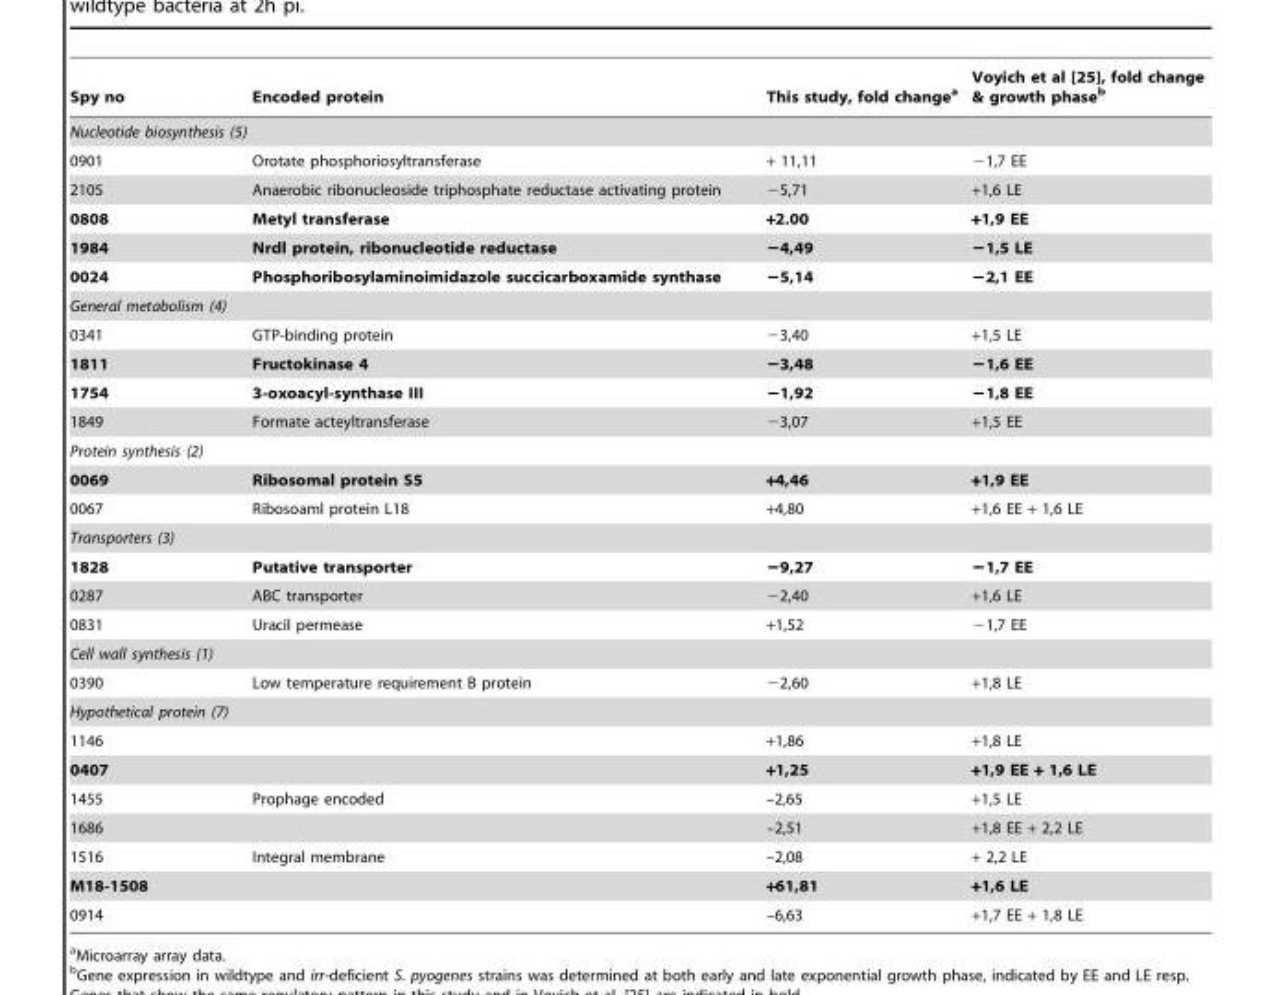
<table><thead><tr><td>Spy no</td><td>Encoded protein</td><td>This study, fold change<sup>a</sup></td><td>Voyich et al [25], fold change &amp; growth phase<sup>b</sup></td></tr></thead><tbody><tr><td colspan="4">Nucleotide biosynthesis (5)</td></tr><tr><td>0901</td><td>Orotate phosphoriosyltransferase</td><td>+ 11,11</td><td>−1,7 EE</td></tr><tr><td>2105</td><td>Anaerobic ribonucleoside triphosphate reductase activating protein</td><td>−5,71</td><td>+1,6 LE</td></tr><tr><td>0808</td><td>Metyl transferase</td><td>+2.00</td><td>+1,9 EE</td></tr><tr><td>1984</td><td>Nrdl protein, ribonucleotide reductase</td><td>−4,49</td><td>−1,5 LE</td></tr><tr><td>0024</td><td>Phosphoribosylaminoimidazole succicarboxamide synthase</td><td>−5,14</td><td>−2,1 EE</td></tr><tr><td colspan="4">General metabolism (4)</td></tr><tr><td>0341</td><td>GTP-binding protein</td><td>−3,40</td><td>+1,5 LE</td></tr><tr><td>1811</td><td>Fructokinase 4</td><td>−3,48</td><td>−1,6 EE</td></tr><tr><td>1754</td><td>3-oxoacyl-synthase III</td><td>−1,92</td><td>−1,8 EE</td></tr><tr><td>1849</td><td>Formate acteyltransferase</td><td>−3,07</td><td>+1,5 EE</td></tr><tr><td colspan="4">Protein synthesis (2)</td></tr><tr><td>0069</td><td>Ribosomal protein S5</td><td>+4,46</td><td>+1,9 EE</td></tr><tr><td>0067</td><td>Ribosoaml protein L18</td><td>+4,80</td><td>+1,6 EE + 1,6 LE</td></tr><tr><td colspan="4">Transporters (3)</td></tr><tr><td>1828</td><td>Putative transporter</td><td>−9,27</td><td>−1,7 EE</td></tr><tr><td>0287</td><td>ABC transporter</td><td>−2,40</td><td>+1,6 LE</td></tr><tr><td>0831</td><td>Uracil permease</td><td>+1,52</td><td>−1,7 EE</td></tr><tr><td colspan="4">Cell wall synthesis (1)</td></tr><tr><td>0390</td><td>Low temperature requirement B protein</td><td>−2,60</td><td>+1,8 LE</td></tr><tr><td colspan="4">Hypothetical protein (7)</td></tr><tr><td>1146</td><td></td><td>+1,86</td><td>+1,8 LE</td></tr><tr><td>0407</td><td></td><td>+1,25</td><td>+1,9 EE + 1,6 LE</td></tr><tr><td>1455</td><td>Prophage encoded</td><td>–2,65</td><td>+1,5 LE</td></tr><tr><td>1686</td><td></td><td>–2,51</td><td>+1,8 EE + 2,2 LE</td></tr><tr><td>1516</td><td>Integral membrane</td><td>–2,08</td><td>+ 2,2 LE</td></tr><tr><td>M18-1508</td><td></td><td>+61,81</td><td>+1,6 LE</td></tr><tr><td>0914</td><td></td><td>–6,63</td><td>+1,7 EE + 1,8 LE</td></tr></tbody></table>